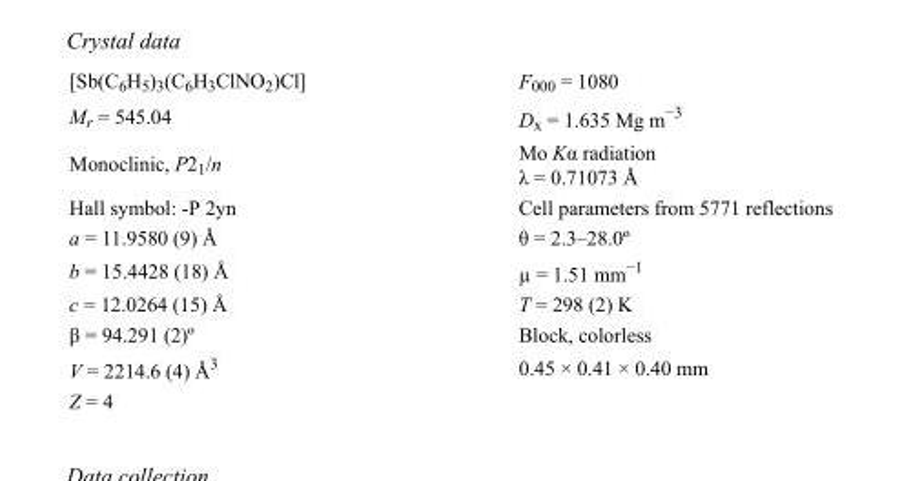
<table><tbody><tr><td>[Sb(C<sub>6</sub>H<sub>5</sub>)<sub>3</sub>(C<sub>6</sub>H<sub>3</sub>ClNO<sub>2</sub>)Cl]</td><td>F000 = 1080</td></tr><tr><td>M<sub>r</sub> = 545.04</td><td>D<sub>x</sub> = 1.635 Mg m<sup>−3</sup></td></tr><tr><td>Monoclinic, P2<sub>1</sub>/n</td><td>Mo Kα radiation λ = 0.71073 Å</td></tr><tr><td>Hall symbol: -P 2yn</td><td>Cell parameters from 5771 reflections</td></tr><tr><td>a = 11.9580 (9) Å</td><td>θ = 2.3–28.0º</td></tr><tr><td>b = 15.4428 (18) Å</td><td>µ = 1.51 mm<sup>−1</sup></td></tr><tr><td>c = 12.0264 (15) Å</td><td>T = 298 (2) K</td></tr><tr><td>β = 94.291 (2)º</td><td>Block, colorless</td></tr><tr><td>V = 2214.6 (4) Å<sup>3</sup></td><td>0.45 × 0.41 × 0.40 mm</td></tr><tr><td>Z = 4</td><td></td></tr></tbody></table>